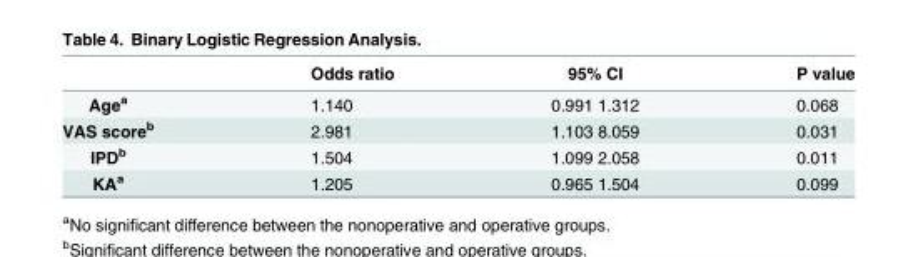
<table><thead><tr><td></td><td>Odds ratio</td><td>95% CI</td><td>P value</td></tr></thead><tbody><tr><td>Age<sup>a</sup></td><td>1.140</td><td>0.991 1.312</td><td>0.068</td></tr><tr><td>VAS score<sup>b</sup></td><td>2.981</td><td>1.103 8.059</td><td>0.031</td></tr><tr><td>IPD<sup>b</sup></td><td>1.504</td><td>1.099 2.058</td><td>0.011</td></tr><tr><td>KA<sup>a</sup></td><td>1.205</td><td>0.965 1.504</td><td>0.099</td></tr></tbody></table>